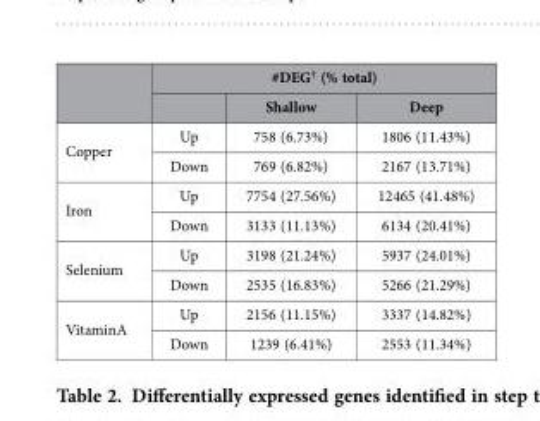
<table><thead><tr><td rowspan="2"></td><td colspan="3">#DEG† (% total)</td></tr><tr><td></td><td>Shallow</td><td>Deep</td></tr></thead><tbody><tr><td rowspan="2">Copper</td><td>Up</td><td>758 (6.73%)</td><td>1806 (11.43%)</td></tr><tr><td>Down</td><td>769 (6.82%)</td><td>2167 (13.71%)</td></tr><tr><td rowspan="2">Iron</td><td>Up</td><td>7754 (27.56%)</td><td>12465 (41.48%)</td></tr><tr><td>Down</td><td>3133 (11.13%)</td><td>6134 (20.41%)</td></tr><tr><td rowspan="2">Selenium</td><td>Up</td><td>3198 (21.24%)</td><td>5937 (24.01%)</td></tr><tr><td>Down</td><td>2535 (16.83%)</td><td>5266 (21.29%)</td></tr><tr><td rowspan="2">VitaminA</td><td>Up</td><td>2156 (11.15%)</td><td>3337 (14.82%)</td></tr><tr><td>Down</td><td>1239 (6.41%)</td><td>2553 (11.34%)</td></tr></tbody></table>